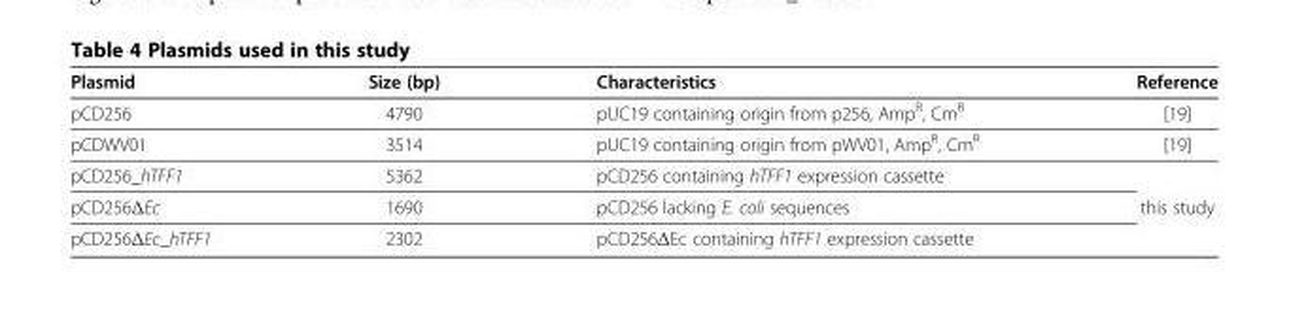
<table><thead><tr><td>Plasmid</td><td>Size (bp)</td><td>Characteristics</td><td>Reference</td></tr></thead><tbody><tr><td>pCD256</td><td>4790</td><td>pUC19 containing origin from p256, Amp<sup>R</sup>, Cm<sup>R</sup></td><td>[19]</td></tr><tr><td>pCDWV01</td><td>3514</td><td>pUC19 containing origin from pWV01, Amp<sup>R</sup>, Cm<sup>R</sup></td><td>[19]</td></tr><tr><td>pCD256_hTFF1</td><td>5362</td><td>pCD256 containing hTFF1 expression cassette</td><td></td></tr><tr><td>pCD256ΔEc</td><td>1690</td><td>pCD256 lacking E. coli sequences</td><td rowspan="2">this study</td></tr><tr><td>pCD256ΔEc_hTFF1</td><td>2302</td><td>pCD256ΔEc containing hTFF1 expression cassette</td></tr></tbody></table>